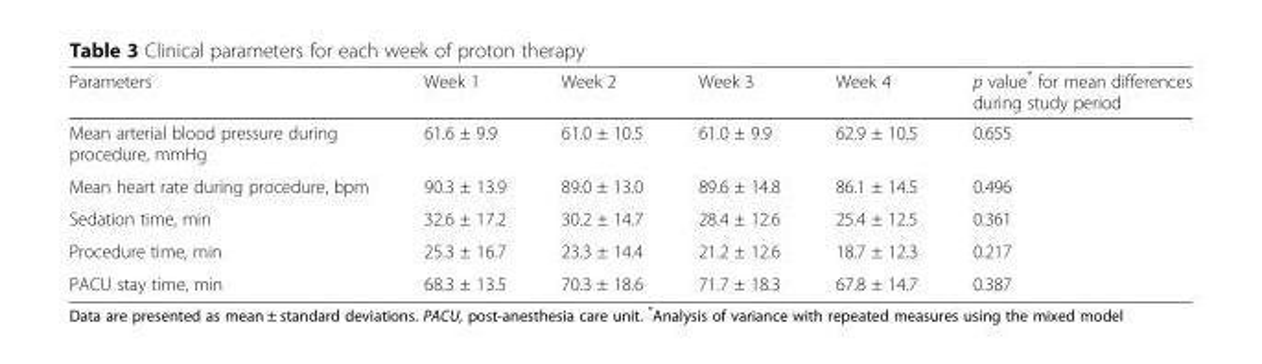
<table><thead><tr><td>Parameters</td><td>Week 1</td><td>Week 2</td><td>Week 3</td><td>Week 4</td><td>p value* for mean differences during study period</td></tr></thead><tbody><tr><td>Mean arterial blood pressure during procedure, mmHg</td><td>61.6 ± 9.9</td><td>61.0 ± 10.5</td><td>61.0 ± 9.9</td><td>62.9 ± 10.5</td><td>0.655</td></tr><tr><td>Mean heart rate during procedure, bpm</td><td>90.3 ± 13.9</td><td>89.0 ± 13.0</td><td>89.6 ± 14.8</td><td>86.1 ± 14.5</td><td>0.496</td></tr><tr><td>Sedation time, min</td><td>32.6 ± 17.2</td><td>30.2 ± 14.7</td><td>28.4 ± 12.6</td><td>25.4 ± 12.5</td><td>0.361</td></tr><tr><td>Procedure time, min</td><td>25.3 ± 16.7</td><td>23.3 ± 14.4</td><td>21.2 ± 12.6</td><td>18.7 ± 12.3</td><td>0.217</td></tr><tr><td>PACU stay time, min</td><td>68.3 ± 13.5</td><td>70.3 ± 18.6</td><td>71.7 ± 18.3</td><td>67.8 ± 14.7</td><td>0.387</td></tr></tbody></table>